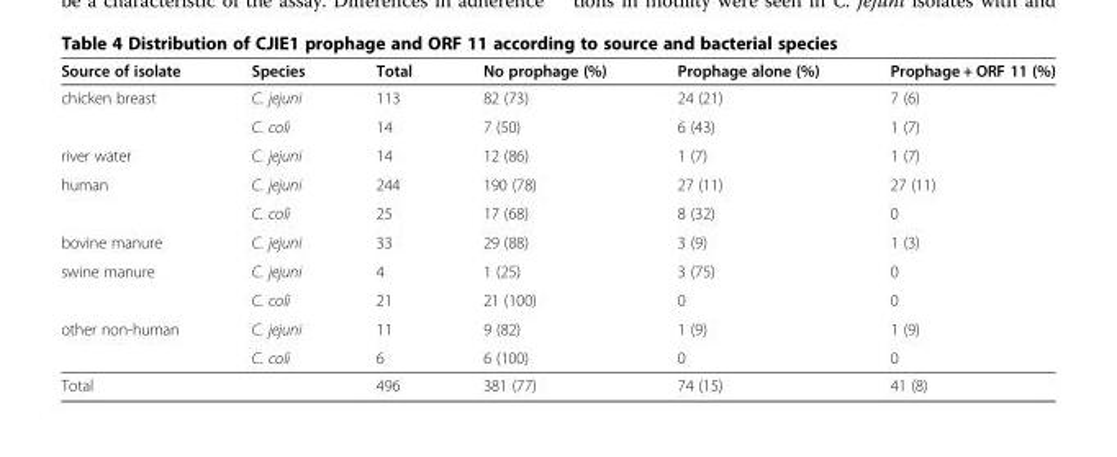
<table><thead><tr><td>Source of isolate</td><td>Species</td><td>Total</td><td>No prophage (%)</td><td>Prophage alone (%)</td><td>Prophage + ORF 11 (%)</td></tr></thead><tbody><tr><td rowspan="2">chicken breast</td><td>C. jejuni</td><td>113</td><td>82 (73)</td><td>24 (21)</td><td>7 (6)</td></tr><tr><td>C. coli</td><td>14</td><td>7 (50)</td><td>6 (43)</td><td>1 (7)</td></tr><tr><td>river water</td><td>C. jejuni</td><td>14</td><td>12 (86)</td><td>1 (7)</td><td>1 (7)</td></tr><tr><td rowspan="2">human</td><td>C. jejuni</td><td>244</td><td>190 (78)</td><td>27 (11)</td><td>27 (11)</td></tr><tr><td>C. coli</td><td>25</td><td>17 (68)</td><td>8 (32)</td><td>0</td></tr><tr><td>bovine manure</td><td>C. jejuni</td><td>33</td><td>29 (88)</td><td>3 (9)</td><td>1 (3)</td></tr><tr><td rowspan="2">swine manure</td><td>C. jejuni</td><td>4</td><td>1 (25)</td><td>3 (75)</td><td>0</td></tr><tr><td>C. coli</td><td>21</td><td>21 (100)</td><td>0</td><td>0</td></tr><tr><td rowspan="2">other non-human</td><td>C. jejuni</td><td>11</td><td>9 (82)</td><td>1 (9)</td><td>1 (9)</td></tr><tr><td>C. coli</td><td>6</td><td>6 (100)</td><td>0</td><td>0</td></tr><tr><td>Total</td><td></td><td>496</td><td>381 (77)</td><td>74 (15)</td><td>41 (8)</td></tr></tbody></table>